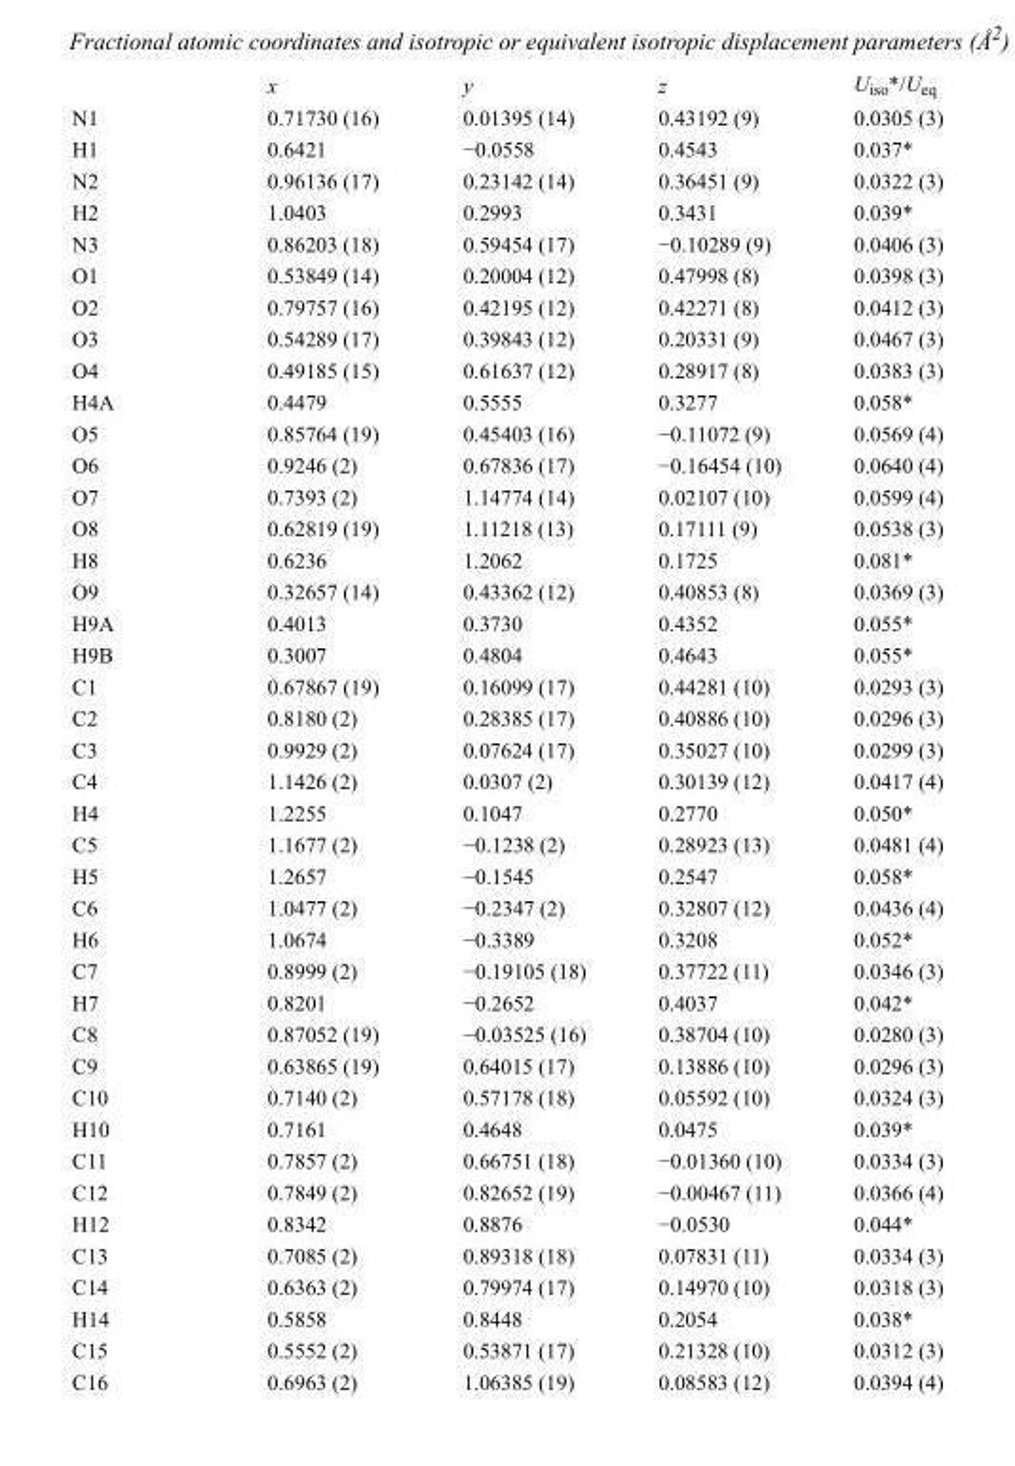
<table><thead><tr><td></td><td>x</td><td>y</td><td>z</td><td>U<sub>iso</sub>*/U<sub>eq</sub></td></tr></thead><tbody><tr><td>N1</td><td>0.71730 (16)</td><td>0.01395 (14)</td><td>0.43192 (9)</td><td>0.0305 (3)</td></tr><tr><td>H1</td><td>0.6421</td><td>−0.0558</td><td>0.4543</td><td>0.037*</td></tr><tr><td>N2</td><td>0.96136 (17)</td><td>0.23142 (14)</td><td>0.36451 (9)</td><td>0.0322 (3)</td></tr><tr><td>H2</td><td>1.0403</td><td>0.2993</td><td>0.3431</td><td>0.039*</td></tr><tr><td>N3</td><td>0.86203 (18)</td><td>0.59454 (17)</td><td>−0.10289 (9)</td><td>0.0406 (3)</td></tr><tr><td>O1</td><td>0.53849 (14)</td><td>0.20004 (12)</td><td>0.47998 (8)</td><td>0.0398 (3)</td></tr><tr><td>O2</td><td>0.79757 (16)</td><td>0.42195 (12)</td><td>0.42271 (8)</td><td>0.0412 (3)</td></tr><tr><td>O3</td><td>0.54289 (17)</td><td>0.39843 (12)</td><td>0.20331 (9)</td><td>0.0467 (3)</td></tr><tr><td>O4</td><td>0.49185 (15)</td><td>0.61637 (12)</td><td>0.28917 (8)</td><td>0.0383 (3)</td></tr><tr><td>H4A</td><td>0.4479</td><td>0.5555</td><td>0.3277</td><td>0.058*</td></tr><tr><td>O5</td><td>0.85764 (19)</td><td>0.45403 (16)</td><td>−0.11072 (9)</td><td>0.0569 (4)</td></tr><tr><td>O6</td><td>0.9246 (2)</td><td>0.67836 (17)</td><td>−0.16454 (10)</td><td>0.0640 (4)</td></tr><tr><td>O7</td><td>0.7393 (2)</td><td>1.14774 (14)</td><td>0.02107 (10)</td><td>0.0599 (4)</td></tr><tr><td>O8</td><td>0.62819 (19)</td><td>1.11218 (13)</td><td>0.17111 (9)</td><td>0.0538 (3)</td></tr><tr><td>H8</td><td>0.6236</td><td>1.2062</td><td>0.1725</td><td>0.081*</td></tr><tr><td>O9</td><td>0.32657 (14)</td><td>0.43362 (12)</td><td>0.40853 (8)</td><td>0.0369 (3)</td></tr><tr><td>H9A</td><td>0.4013</td><td>0.3730</td><td>0.4352</td><td>0.055*</td></tr><tr><td>H9B</td><td>0.3007</td><td>0.4804</td><td>0.4643</td><td>0.055*</td></tr><tr><td>C1</td><td>0.67867 (19)</td><td>0.16099 (17)</td><td>0.44281 (10)</td><td>0.0293 (3)</td></tr><tr><td>C2</td><td>0.8180 (2)</td><td>0.28385 (17)</td><td>0.40886 (10)</td><td>0.0296 (3)</td></tr><tr><td>C3</td><td>0.9929 (2)</td><td>0.07624 (17)</td><td>0.35027 (10)</td><td>0.0299 (3)</td></tr><tr><td>C4</td><td>1.1426 (2)</td><td>0.0307 (2)</td><td>0.30139 (12)</td><td>0.0417 (4)</td></tr><tr><td>H4</td><td>1.2255</td><td>0.1047</td><td>0.2770</td><td>0.050*</td></tr><tr><td>C5</td><td>1.1677 (2)</td><td>−0.1238 (2)</td><td>0.28923 (13)</td><td>0.0481 (4)</td></tr><tr><td>H5</td><td>1.2657</td><td>−0.1545</td><td>0.2547</td><td>0.058*</td></tr><tr><td>C6</td><td>1.0477 (2)</td><td>−0.2347 (2)</td><td>0.32807 (12)</td><td>0.0436 (4)</td></tr><tr><td>H6</td><td>1.0674</td><td>−0.3389</td><td>0.3208</td><td>0.052*</td></tr><tr><td>C7</td><td>0.8999 (2)</td><td>−0.19105 (18)</td><td>0.37722 (11)</td><td>0.0346 (3)</td></tr><tr><td>H7</td><td>0.8201</td><td>−0.2652</td><td>0.4037</td><td>0.042*</td></tr><tr><td>C8</td><td>0.87052 (19)</td><td>−0.03525 (16)</td><td>0.38704 (10)</td><td>0.0280 (3)</td></tr><tr><td>C9</td><td>0.63865 (19)</td><td>0.64015 (17)</td><td>0.13886 (10)</td><td>0.0296 (3)</td></tr><tr><td>C10</td><td>0.7140 (2)</td><td>0.57178 (18)</td><td>0.05592 (10)</td><td>0.0324 (3)</td></tr><tr><td>H10</td><td>0.7161</td><td>0.4648</td><td>0.0475</td><td>0.039*</td></tr><tr><td>C11</td><td>0.7857 (2)</td><td>0.66751 (18)</td><td>−0.01360 (10)</td><td>0.0334 (3)</td></tr><tr><td>C12</td><td>0.7849 (2)</td><td>0.82652 (19)</td><td>−0.00467 (11)</td><td>0.0366 (4)</td></tr><tr><td>H12</td><td>0.8342</td><td>0.8876</td><td>−0.0530</td><td>0.044*</td></tr><tr><td>C13</td><td>0.7085 (2)</td><td>0.89318 (18)</td><td>0.07831 (11)</td><td>0.0334 (3)</td></tr><tr><td>C14</td><td>0.6363 (2)</td><td>0.79974 (17)</td><td>0.14970 (10)</td><td>0.0318 (3)</td></tr><tr><td>H14</td><td>0.5858</td><td>0.8448</td><td>0.2054</td><td>0.038*</td></tr><tr><td>C15</td><td>0.5552 (2)</td><td>0.53871 (17)</td><td>0.21328 (10)</td><td>0.0312 (3)</td></tr><tr><td>C16</td><td>0.6963 (2)</td><td>1.06385 (19)</td><td>0.08583 (12)</td><td>0.0394 (4)</td></tr></tbody></table>